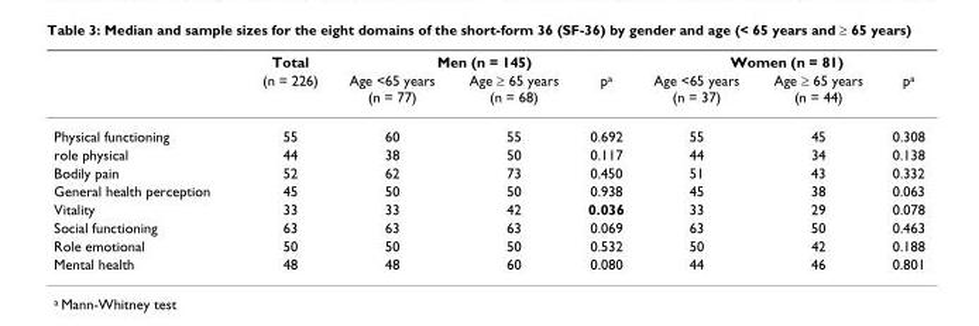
<table><thead><tr><td rowspan="2"></td><td rowspan="2">Total (n = 226)</td><td colspan="3">Men (n = 145)</td><td colspan="3">Women (n = 81)</td></tr><tr><td>Age &lt;65 years (n = 77)</td><td>Age ≥ 65 years (n = 68)</td><td>p<sup>a</sup></td><td>Age &lt;65 years (n = 37)</td><td>Age ≥ 65 years (n = 44)</td><td>p<sup>a</sup></td></tr></thead><tbody><tr><td>Physical functioning</td><td>55</td><td>60</td><td>55</td><td>0.692</td><td>55</td><td>45</td><td>0.308</td></tr><tr><td>role physical</td><td>44</td><td>38</td><td>50</td><td>0.117</td><td>44</td><td>34</td><td>0.138</td></tr><tr><td>Bodily pain</td><td>52</td><td>62</td><td>73</td><td>0.450</td><td>51</td><td>43</td><td>0.332</td></tr><tr><td>General health perception</td><td>45</td><td>50</td><td>50</td><td>0.938</td><td>45</td><td>38</td><td>0.063</td></tr><tr><td>Vitality</td><td>33</td><td>33</td><td>42</td><td>0.036</td><td>33</td><td>29</td><td>0.078</td></tr><tr><td>Social functioning</td><td>63</td><td>63</td><td>63</td><td>0.069</td><td>63</td><td>50</td><td>0.463</td></tr><tr><td>Role emotional</td><td>50</td><td>50</td><td>50</td><td>0.532</td><td>50</td><td>42</td><td>0.188</td></tr><tr><td>Mental health</td><td>48</td><td>48</td><td>60</td><td>0.080</td><td>44</td><td>46</td><td>0.801</td></tr></tbody></table>